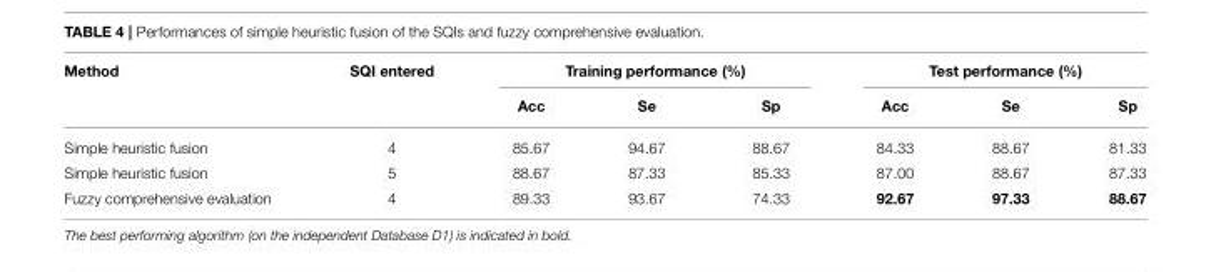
<table><thead><tr><td rowspan="2">Method</td><td rowspan="2">SQI entered</td><td colspan="3">Training performance (%)</td><td colspan="3">Test performance (%)</td></tr><tr><td>Acc</td><td>Se</td><td>Sp</td><td>Acc</td><td>Se</td><td>Sp</td></tr></thead><tbody><tr><td>Simple heuristic fusion</td><td>4</td><td>85.67</td><td>94.67</td><td>88.67</td><td>84.33</td><td>88.67</td><td>81.33</td></tr><tr><td>Simple heuristic fusion</td><td>5</td><td>88.67</td><td>87.33</td><td>85.33</td><td>87.00</td><td>88.67</td><td>87.33</td></tr><tr><td>Fuzzy comprehensive evaluation</td><td>4</td><td>89.33</td><td>93.67</td><td>74.33</td><td>92.67</td><td>97.33</td><td>88.67</td></tr></tbody></table>